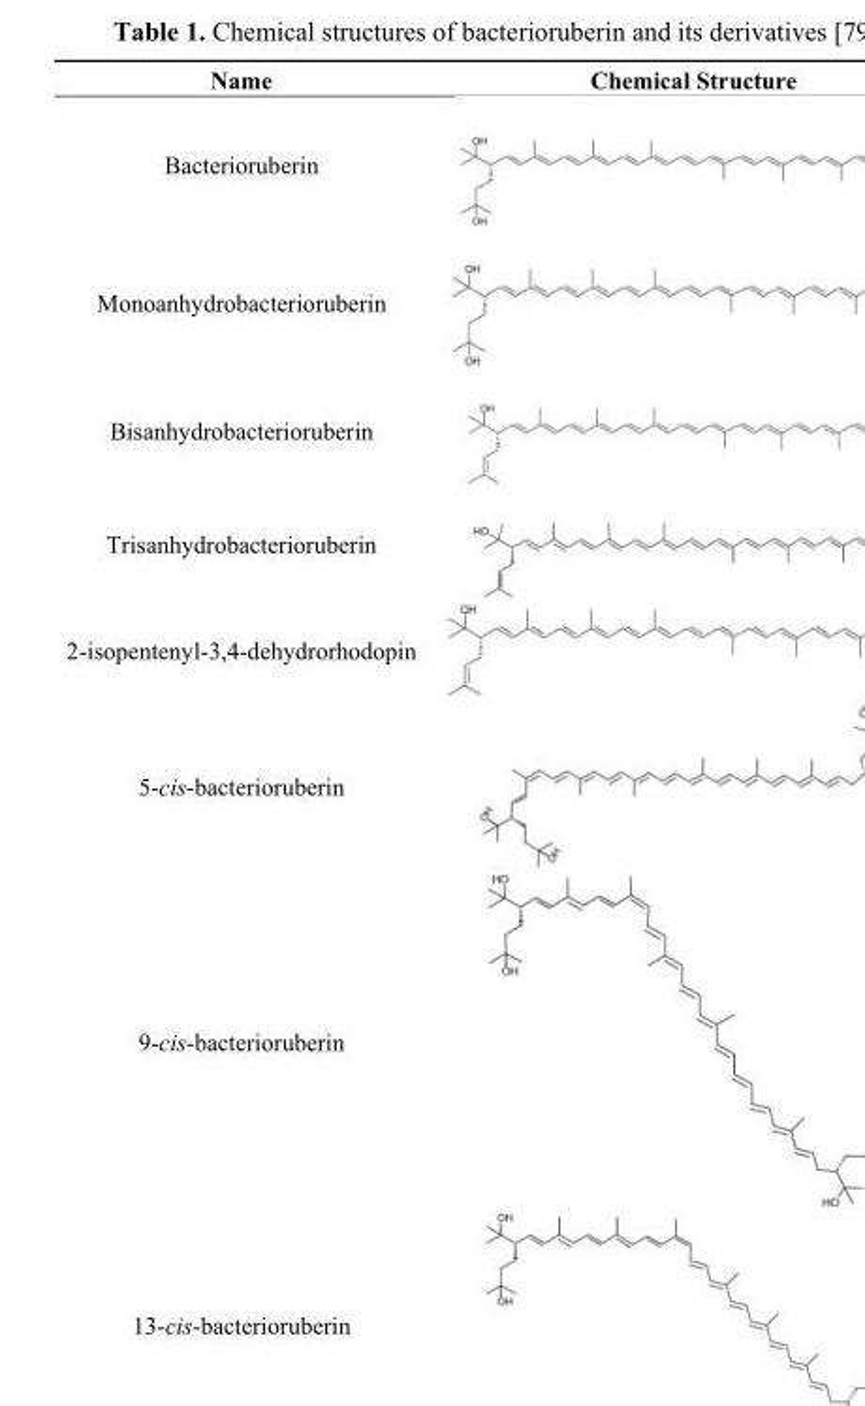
<table><thead><tr><td>Name</td><td>Chemical Structure</td></tr></thead><tbody><tr><td colspan="2">Bacterioruberin</td></tr><tr><td colspan="2">Monoanhydrobacterioruberin</td></tr><tr><td colspan="2">Bisanhydrobacterioruberin</td></tr><tr><td colspan="2">Trisanhydrobacterioruberin</td></tr><tr><td colspan="2">2-isopentenyl-3,4-dehydrorhodopin</td></tr><tr><td colspan="2">5-cis-bacterioruberin</td></tr><tr><td colspan="2">9-cis-bacterioruberin</td></tr><tr><td>13-cis-bacterioruberin</td><td></td></tr></tbody></table>